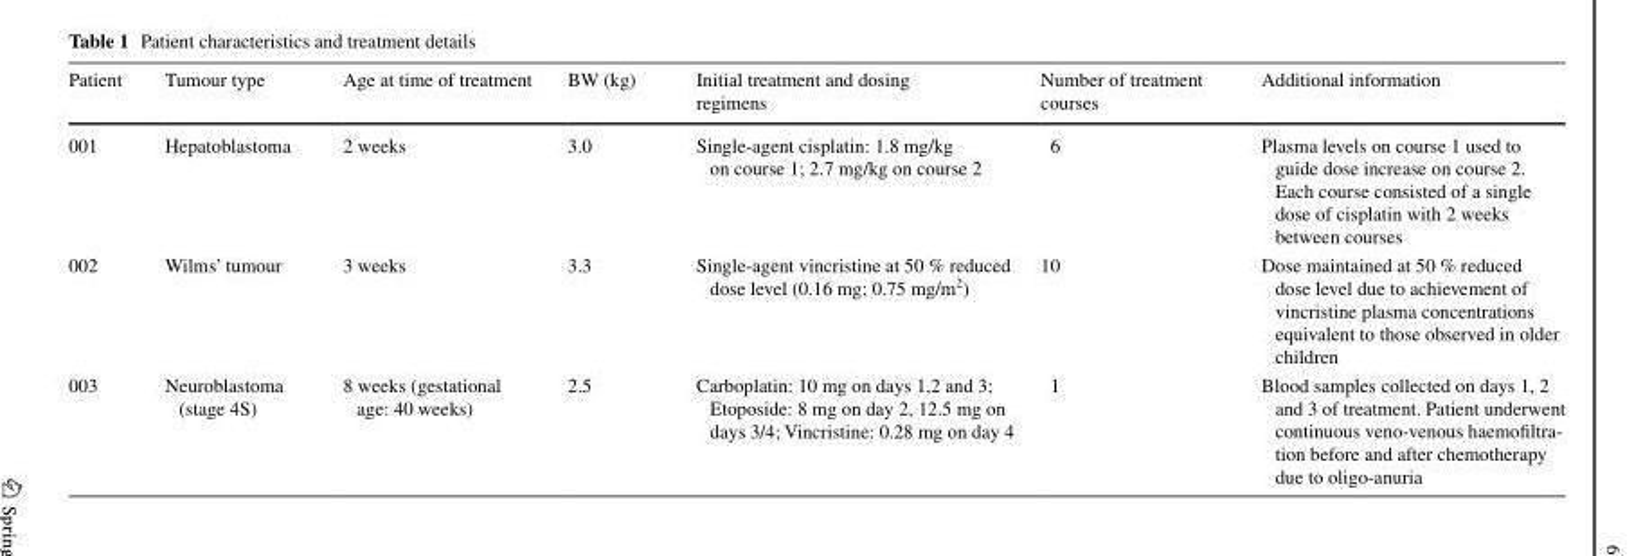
<table><thead><tr><td>Patient</td><td>Tumour type</td><td>Age at time of treatment</td><td>BW (kg)</td><td>Initial treatment and dosing regimens</td><td>Number of treatment courses</td><td>Additional information</td></tr></thead><tbody><tr><td>001</td><td>Hepatoblastoma</td><td>2 weeks</td><td>3.0</td><td>Single-agent cisplatin: 1.8 mg/kg on course 1; 2.7 mg/kg on course 2</td><td>6</td><td>Plasma levels on course 1 used to guide dose increase on course 2. Each course consisted of a single dose of cisplatin with 2 weeks between courses</td></tr><tr><td>002</td><td>Wilms’ tumour</td><td>3 weeks</td><td>3.3</td><td>Single-agent vincristine at 50 % reduced dose level (0.16 mg; 0.75 mg/m<sup>2</sup>)</td><td>10</td><td>Dose maintained at 50 % reduced dose level due to achievement of vincristine plasma concentrations equivalent to those observed in older children</td></tr><tr><td>003</td><td>Neuroblastoma (stage 4S)</td><td>8 weeks (gestational age: 40 weeks)</td><td>2.5</td><td>Carboplatin: 10 mg on days 1,2 and 3; Etoposide: 8 mg on day 2, 12.5 mg on days 3/4; Vincristine: 0.28 mg on day 4</td><td>1</td><td>Blood samples collected on days 1, 2 and 3 of treatment. Patient underwent continuous veno-venous haemofiltra- tion before and after chemotherapy due to oligo-anuria</td></tr></tbody></table>